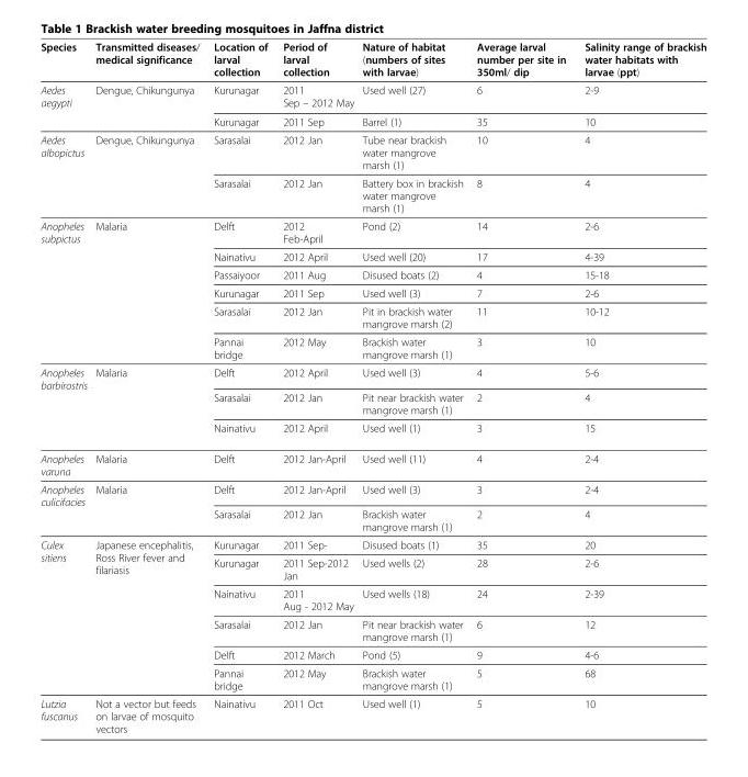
<table><thead><tr><td>Species</td><td>Transmitted diseases/ medical significance</td><td>Location of larval collection</td><td>Period of larval collection</td><td>Nature of habitat (numbers of sites with larvae)</td><td>Average larval number per site in 350ml/ dip</td><td>Salinity range of brackish water habitats with larvae (ppt)</td></tr></thead><tbody><tr><td rowspan="2">Aedes aegypti</td><td>Dengue, Chikungunya</td><td>Kurunagar</td><td>2011 Sep – 2012 May</td><td>Used well (27)</td><td>6</td><td>2-9</td></tr><tr><td></td><td>Kurunagar</td><td>2011 Sep</td><td>Barrel (1)</td><td>35</td><td>10</td></tr><tr><td rowspan="2">Aedes albopictus</td><td>Dengue, Chikungunya</td><td>Sarasalai</td><td>2012 Jan</td><td>Tube near brackish water mangrove marsh (1)</td><td>10</td><td>4</td></tr><tr><td></td><td>Sarasalai</td><td>2012 Jan</td><td>Battery box in brackish water mangrove marsh (1)</td><td>8</td><td>4</td></tr><tr><td rowspan="6">Anopheles subpictus</td><td rowspan="6">Malaria</td><td>Delft</td><td>2012 Feb-April</td><td>Pond (2)</td><td>14</td><td>2-6</td></tr><tr><td>Nainativu</td><td>2012 April</td><td>Used well (20)</td><td>17</td><td>4-39</td></tr><tr><td>Passaiyoor</td><td>2011 Aug</td><td>Disused boats (2)</td><td>4</td><td>15-18</td></tr><tr><td>Kurunagar</td><td>2011 Sep</td><td>Used well (3)</td><td>7</td><td>2-6</td></tr><tr><td>Sarasalai</td><td>2012 Jan</td><td>Pit in brackish water mangrove marsh (2)</td><td>11</td><td>10-12</td></tr><tr><td>Pannai bridge</td><td>2012 May</td><td>Brackish water mangrove marsh (1)</td><td>3</td><td>10</td></tr><tr><td rowspan="3">Anopheles barbirostris</td><td rowspan="2">Malaria</td><td>Delft</td><td>2012 April</td><td>Used well (3)</td><td>4</td><td>5-6</td></tr><tr><td>Sarasalai</td><td>2012 Jan</td><td>Pit near brackish water mangrove marsh (1)</td><td>2</td><td>4</td></tr><tr><td></td><td>Nainativu</td><td>2012 April</td><td>Used well (1)</td><td>3</td><td>15</td></tr><tr><td>Anopheles varuna</td><td>Malaria</td><td>Delft</td><td>2012 Jan-April</td><td>Used well (11)</td><td>4</td><td>2-4</td></tr><tr><td rowspan="2">Anopheles culicifacies</td><td>Malaria</td><td>Delft</td><td>2012 Jan-April</td><td>Used well (3)</td><td>3</td><td>2-4</td></tr><tr><td></td><td>Sarasalai</td><td>2012 Jan</td><td>Brackish water mangrove marsh (1)</td><td>2</td><td>4</td></tr><tr><td rowspan="6">Culex sitiens</td><td rowspan="6">Japanese encephalitis, Ross River fever and filariasis</td><td>Kurunagar</td><td>2011 Sep-</td><td>Disused boats (1)</td><td>35</td><td>20</td></tr><tr><td>Kurunagar</td><td>2011 Sep-2012 Jan</td><td>Used wells (2)</td><td>28</td><td>2-6</td></tr><tr><td>Nainativu</td><td>2011 Aug - 2012 May</td><td>Used wells (18)</td><td>24</td><td>2-39</td></tr><tr><td>Sarasalai</td><td>2012 Jan</td><td>Pit near brackish water mangrove marsh (1)</td><td>6</td><td>12</td></tr><tr><td>Delft</td><td>2012 March</td><td>Pond (5)</td><td>9</td><td>4-6</td></tr><tr><td>Pannai bridge</td><td>2012 May</td><td>Brackish water mangrove marsh (1)</td><td>5</td><td>68</td></tr><tr><td>Lutzia fuscanus</td><td>Not a vector but feeds on larvae of mosquito vectors</td><td>Nainativu</td><td>2011 Oct</td><td>Used well (1)</td><td>5</td><td>10</td></tr></tbody></table>